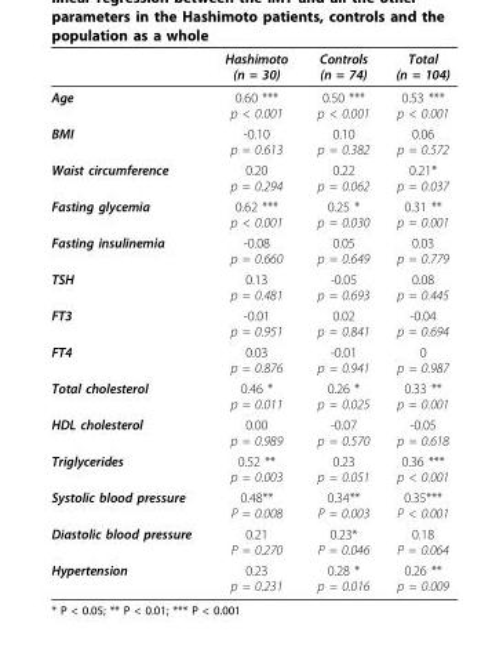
<table><thead><tr><td></td><td>Hashimoto (n = 30)</td><td>Controls (n = 74)</td><td>Total (n = 104)</td></tr></thead><tbody><tr><td>Age</td><td>0.60 *** p &lt; 0.001</td><td>0.50 *** p &lt; 0.001</td><td>0.53 *** p &lt; 0.001</td></tr><tr><td>BMI</td><td>-0.10 p = 0.613</td><td>0.10 p = 0.382</td><td>0.06 p = 0.572</td></tr><tr><td>Waist circumference</td><td>0.20 p = 0.294</td><td>0.22 p = 0.062</td><td>0.21* p = 0.037</td></tr><tr><td>Fasting glycemia</td><td>0.62 *** p &lt; 0.001</td><td>0.25 * p = 0.030</td><td>0.31 ** p = 0.001</td></tr><tr><td>Fasting insulinemia</td><td>-0.08 p = 0.660</td><td>0.05 p = 0.649</td><td>0.03 p = 0.779</td></tr><tr><td>TSH</td><td>0.13 p = 0.481</td><td>-0.05 p = 0.693</td><td>0.08 p = 0.445</td></tr><tr><td>FT3</td><td>-0.01 p = 0.951</td><td>0.02 p = 0.841</td><td>-0.04 p = 0.694</td></tr><tr><td>FT4</td><td>0.03 p = 0.876</td><td>-0.01 p = 0.941</td><td>0 p = 0.987</td></tr><tr><td>Total cholesterol</td><td>0.46 * p = 0.011</td><td>0.26 * p = 0.025</td><td>0.33 ** p = 0.001</td></tr><tr><td>HDL cholesterol</td><td>0.00 p = 0.989</td><td>-0.07 p = 0.570</td><td>-0.05 p = 0.618</td></tr><tr><td>Triglycerides</td><td>0.52 ** p = 0.003</td><td>0.23 p = 0.051</td><td>0.36 *** p &lt; 0.001</td></tr><tr><td>Systolic blood pressure</td><td>0.48** P = 0.008</td><td>0.34** P = 0.003</td><td>0.35*** P &lt; 0.001</td></tr><tr><td>Diastolic blood pressure</td><td>0.21 P = 0.270</td><td>0.23* P = 0.046</td><td>0.18 P = 0.064</td></tr><tr><td>Hypertension</td><td>0.23 p = 0.231</td><td>0.28 * p = 0.016</td><td>0.26 ** p = 0.009</td></tr></tbody></table>